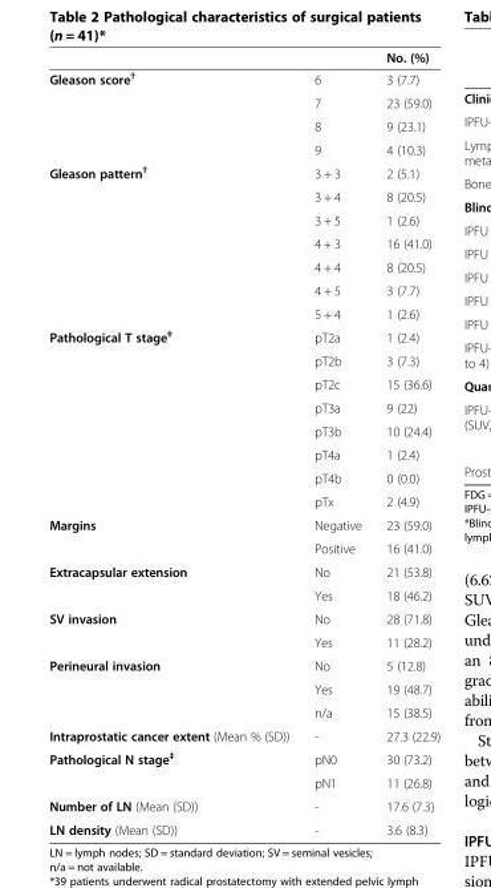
<table><thead><tr><td></td><td></td><td>No. (%)</td></tr></thead><tbody><tr><td rowspan="4">Gleason score<sup>†</sup></td><td>6</td><td>3 (7.7)</td></tr><tr><td>7</td><td>23 (59.0)</td></tr><tr><td>8</td><td>9 (23.1)</td></tr><tr><td>9</td><td>4 (10.3)</td></tr><tr><td rowspan="7">Gleason pattern<sup>†</sup></td><td>3 + 3</td><td>2 (5.1)</td></tr><tr><td>3 + 4</td><td>8 (20.5)</td></tr><tr><td>3 + 5</td><td>1 (2.6)</td></tr><tr><td>4 + 3</td><td>16 (41.0)</td></tr><tr><td>4 + 4</td><td>8 (20.5)</td></tr><tr><td>4 + 5</td><td>3 (7.7)</td></tr><tr><td>5 + 4</td><td>1 (2.6)</td></tr><tr><td rowspan="8">Pathological T stage<sup>‡</sup></td><td>pT2a</td><td>1 (2.4)</td></tr><tr><td>pT2b</td><td>3 (7.3)</td></tr><tr><td>pT2c</td><td>15 (36.6)</td></tr><tr><td>pT3a</td><td>9 (22)</td></tr><tr><td>pT3b</td><td>10 (24.4)</td></tr><tr><td>pT4a</td><td>1 (2.4)</td></tr><tr><td>pT4b</td><td>0 (0.0)</td></tr><tr><td>pTx</td><td>2 (4.9)</td></tr><tr><td rowspan="2">Margins</td><td>Negative</td><td>23 (59.0)</td></tr><tr><td>Positive</td><td>16 (41.0)</td></tr><tr><td rowspan="2">Extracapsular extension</td><td>No</td><td>21 (53.8)</td></tr><tr><td>Yes</td><td>18 (46.2)</td></tr><tr><td rowspan="2">SV invasion</td><td>No</td><td>28 (71.8)</td></tr><tr><td>Yes</td><td>11 (28.2)</td></tr><tr><td rowspan="3">Perineural invasion</td><td>No</td><td>5 (12.8)</td></tr><tr><td>Yes</td><td>19 (48.7)</td></tr><tr><td>n/a</td><td>15 (38.5)</td></tr><tr><td>Intraprostatic cancer extent (Mean % (SD))</td><td>-</td><td>27.3 (22.9)</td></tr><tr><td rowspan="2">Pathological N stage<sup>‡</sup></td><td>pN0</td><td>30 (73.2)</td></tr><tr><td>pN1</td><td>11 (26.8)</td></tr><tr><td>Number of LN (Mean (SD))</td><td>-</td><td>17.6 (7.3)</td></tr><tr><td>LN density (Mean (SD))</td><td>-</td><td>3.6 (8.3)</td></tr></tbody></table>